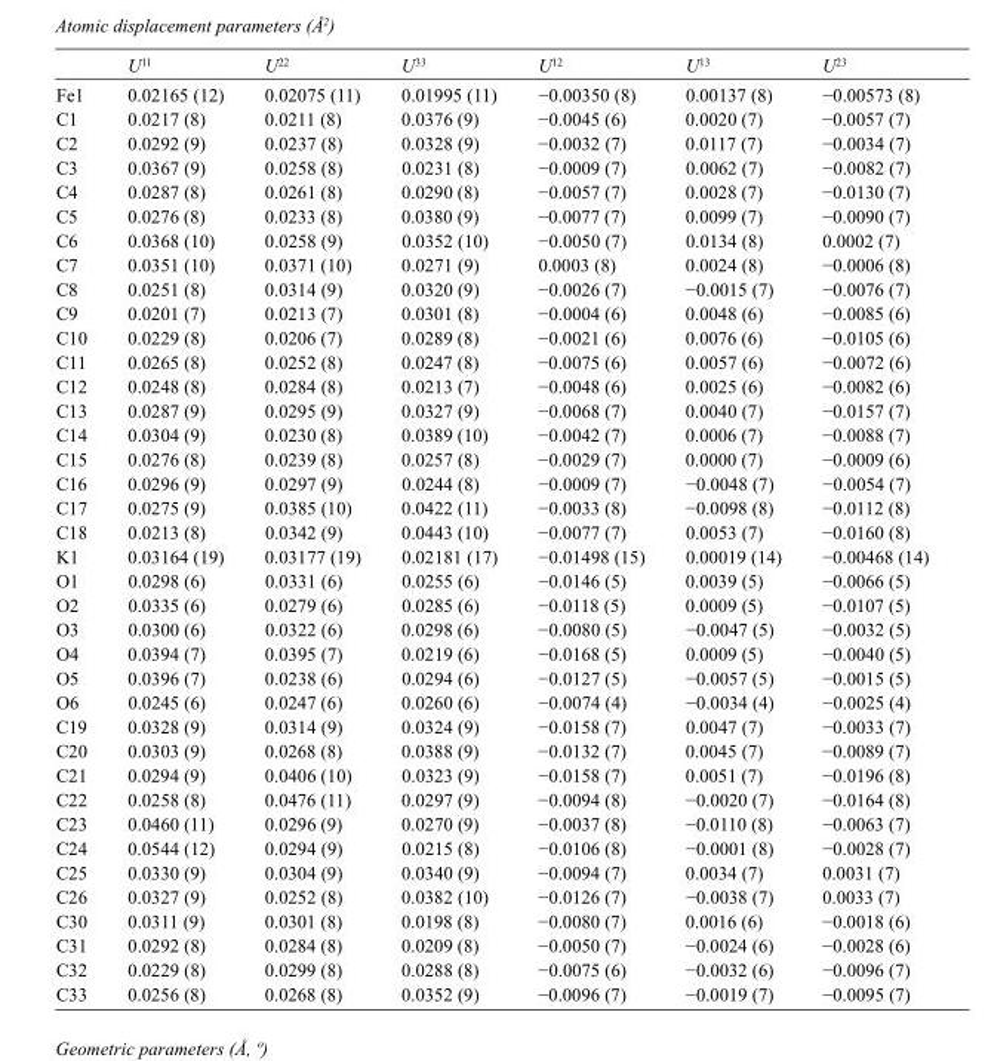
<table><thead><tr><td></td><td>U<sup>11</sup></td><td>U<sup>22</sup></td><td>U<sup>33</sup></td><td>U<sup>12</sup></td><td>U<sup>13</sup></td><td>U<sup>23</sup></td></tr></thead><tbody><tr><td>Fe1</td><td>0.02165 (12)</td><td>0.02075 (11)</td><td>0.01995 (11)</td><td>−0.00350 (8)</td><td>0.00137 (8)</td><td>−0.00573 (8)</td></tr><tr><td>C1</td><td>0.0217 (8)</td><td>0.0211 (8)</td><td>0.0376 (9)</td><td>−0.0045 (6)</td><td>0.0020 (7)</td><td>−0.0057 (7)</td></tr><tr><td>C2</td><td>0.0292 (9)</td><td>0.0237 (8)</td><td>0.0328 (9)</td><td>−0.0032 (7)</td><td>0.0117 (7)</td><td>−0.0034 (7)</td></tr><tr><td>C3</td><td>0.0367 (9)</td><td>0.0258 (8)</td><td>0.0231 (8)</td><td>−0.0009 (7)</td><td>0.0062 (7)</td><td>−0.0082 (7)</td></tr><tr><td>C4</td><td>0.0287 (8)</td><td>0.0261 (8)</td><td>0.0290 (8)</td><td>−0.0057 (7)</td><td>0.0028 (7)</td><td>−0.0130 (7)</td></tr><tr><td>C5</td><td>0.0276 (8)</td><td>0.0233 (8)</td><td>0.0380 (9)</td><td>−0.0077 (7)</td><td>0.0099 (7)</td><td>−0.0090 (7)</td></tr><tr><td>C6</td><td>0.0368 (10)</td><td>0.0258 (9)</td><td>0.0352 (10)</td><td>−0.0050 (7)</td><td>0.0134 (8)</td><td>0.0002 (7)</td></tr><tr><td>C7</td><td>0.0351 (10)</td><td>0.0371 (10)</td><td>0.0271 (9)</td><td>0.0003 (8)</td><td>0.0024 (8)</td><td>−0.0006 (8)</td></tr><tr><td>C8</td><td>0.0251 (8)</td><td>0.0314 (9)</td><td>0.0320 (9)</td><td>−0.0026 (7)</td><td>−0.0015 (7)</td><td>−0.0076 (7)</td></tr><tr><td>C9</td><td>0.0201 (7)</td><td>0.0213 (7)</td><td>0.0301 (8)</td><td>−0.0004 (6)</td><td>0.0048 (6)</td><td>−0.0085 (6)</td></tr><tr><td>C10</td><td>0.0229 (8)</td><td>0.0206 (7)</td><td>0.0289 (8)</td><td>−0.0021 (6)</td><td>0.0076 (6)</td><td>−0.0105 (6)</td></tr><tr><td>C11</td><td>0.0265 (8)</td><td>0.0252 (8)</td><td>0.0247 (8)</td><td>−0.0075 (6)</td><td>0.0057 (6)</td><td>−0.0072 (6)</td></tr><tr><td>C12</td><td>0.0248 (8)</td><td>0.0284 (8)</td><td>0.0213 (7)</td><td>−0.0048 (6)</td><td>0.0025 (6)</td><td>−0.0082 (6)</td></tr><tr><td>C13</td><td>0.0287 (9)</td><td>0.0295 (9)</td><td>0.0327 (9)</td><td>−0.0068 (7)</td><td>0.0040 (7)</td><td>−0.0157 (7)</td></tr><tr><td>C14</td><td>0.0304 (9)</td><td>0.0230 (8)</td><td>0.0389 (10)</td><td>−0.0042 (7)</td><td>0.0006 (7)</td><td>−0.0088 (7)</td></tr><tr><td>C15</td><td>0.0276 (8)</td><td>0.0239 (8)</td><td>0.0257 (8)</td><td>−0.0029 (7)</td><td>0.0000 (7)</td><td>−0.0009 (6)</td></tr><tr><td>C16</td><td>0.0296 (9)</td><td>0.0297 (9)</td><td>0.0244 (8)</td><td>−0.0009 (7)</td><td>−0.0048 (7)</td><td>−0.0054 (7)</td></tr><tr><td>C17</td><td>0.0275 (9)</td><td>0.0385 (10)</td><td>0.0422 (11)</td><td>−0.0033 (8)</td><td>−0.0098 (8)</td><td>−0.0112 (8)</td></tr><tr><td>C18</td><td>0.0213 (8)</td><td>0.0342 (9)</td><td>0.0443 (10)</td><td>−0.0077 (7)</td><td>0.0053 (7)</td><td>−0.0160 (8)</td></tr><tr><td>K1</td><td>0.03164 (19)</td><td>0.03177 (19)</td><td>0.02181 (17)</td><td>−0.01498 (15)</td><td>0.00019 (14)</td><td>−0.00468 (14)</td></tr><tr><td>O1</td><td>0.0298 (6)</td><td>0.0331 (6)</td><td>0.0255 (6)</td><td>−0.0146 (5)</td><td>0.0039 (5)</td><td>−0.0066 (5)</td></tr><tr><td>O2</td><td>0.0335 (6)</td><td>0.0279 (6)</td><td>0.0285 (6)</td><td>−0.0118 (5)</td><td>0.0009 (5)</td><td>−0.0107 (5)</td></tr><tr><td>O3</td><td>0.0300 (6)</td><td>0.0322 (6)</td><td>0.0298 (6)</td><td>−0.0080 (5)</td><td>−0.0047 (5)</td><td>−0.0032 (5)</td></tr><tr><td>O4</td><td>0.0394 (7)</td><td>0.0395 (7)</td><td>0.0219 (6)</td><td>−0.0168 (5)</td><td>0.0009 (5)</td><td>−0.0040 (5)</td></tr><tr><td>O5</td><td>0.0396 (7)</td><td>0.0238 (6)</td><td>0.0294 (6)</td><td>−0.0127 (5)</td><td>−0.0057 (5)</td><td>−0.0015 (5)</td></tr><tr><td>O6</td><td>0.0245 (6)</td><td>0.0247 (6)</td><td>0.0260 (6)</td><td>−0.0074 (4)</td><td>−0.0034 (4)</td><td>−0.0025 (4)</td></tr><tr><td>C19</td><td>0.0328 (9)</td><td>0.0314 (9)</td><td>0.0324 (9)</td><td>−0.0158 (7)</td><td>0.0047 (7)</td><td>−0.0033 (7)</td></tr><tr><td>C20</td><td>0.0303 (9)</td><td>0.0268 (8)</td><td>0.0388 (9)</td><td>−0.0132 (7)</td><td>0.0045 (7)</td><td>−0.0089 (7)</td></tr><tr><td>C21</td><td>0.0294 (9)</td><td>0.0406 (10)</td><td>0.0323 (9)</td><td>−0.0158 (7)</td><td>0.0051 (7)</td><td>−0.0196 (8)</td></tr><tr><td>C22</td><td>0.0258 (8)</td><td>0.0476 (11)</td><td>0.0297 (9)</td><td>−0.0094 (8)</td><td>−0.0020 (7)</td><td>−0.0164 (8)</td></tr><tr><td>C23</td><td>0.0460 (11)</td><td>0.0296 (9)</td><td>0.0270 (9)</td><td>−0.0037 (8)</td><td>−0.0110 (8)</td><td>−0.0063 (7)</td></tr><tr><td>C24</td><td>0.0544 (12)</td><td>0.0294 (9)</td><td>0.0215 (8)</td><td>−0.0106 (8)</td><td>−0.0001 (8)</td><td>−0.0028 (7)</td></tr><tr><td>C25</td><td>0.0330 (9)</td><td>0.0304 (9)</td><td>0.0340 (9)</td><td>−0.0094 (7)</td><td>0.0034 (7)</td><td>0.0031 (7)</td></tr><tr><td>C26</td><td>0.0327 (9)</td><td>0.0252 (8)</td><td>0.0382 (10)</td><td>−0.0126 (7)</td><td>−0.0038 (7)</td><td>0.0033 (7)</td></tr><tr><td>C30</td><td>0.0311 (9)</td><td>0.0301 (8)</td><td>0.0198 (8)</td><td>−0.0080 (7)</td><td>0.0016 (6)</td><td>−0.0018 (6)</td></tr><tr><td>C31</td><td>0.0292 (8)</td><td>0.0284 (8)</td><td>0.0209 (8)</td><td>−0.0050 (7)</td><td>−0.0024 (6)</td><td>−0.0028 (6)</td></tr><tr><td>C32</td><td>0.0229 (8)</td><td>0.0299 (8)</td><td>0.0288 (8)</td><td>−0.0075 (6)</td><td>−0.0032 (6)</td><td>−0.0096 (7)</td></tr><tr><td>C33</td><td>0.0256 (8)</td><td>0.0268 (8)</td><td>0.0352 (9)</td><td>−0.0096 (7)</td><td>−0.0019 (7)</td><td>−0.0095 (7)</td></tr></tbody></table>